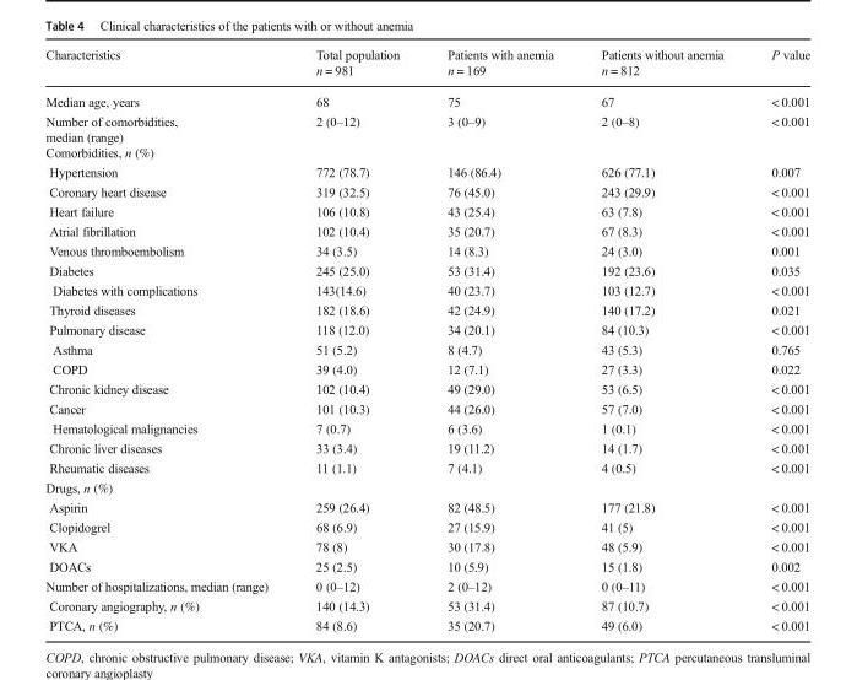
<table><thead><tr><td>Characteristics</td><td>Total population n = 981</td><td>Patients with anemia n = 169</td><td>Patients without anemia n = 812</td><td>P value</td></tr></thead><tbody><tr><td>Median age, years</td><td>68</td><td>75</td><td>67</td><td>&lt; 0.001</td></tr><tr><td>Number of comorbidities, median (range)</td><td>2 (0–12)</td><td>3 (0–9)</td><td>2 (0–8)</td><td>&lt; 0.001</td></tr><tr><td colspan="5">Comorbidities, n (%)</td></tr><tr><td>Hypertension</td><td>772 (78.7)</td><td>146 (86.4)</td><td>626 (77.1)</td><td>0.007</td></tr><tr><td>Coronary heart disease</td><td>319 (32.5)</td><td>76 (45.0)</td><td>243 (29.9)</td><td>&lt; 0.001</td></tr><tr><td>Heart failure</td><td>106 (10.8)</td><td>43 (25.4)</td><td>63 (7.8)</td><td>&lt; 0.001</td></tr><tr><td>Atrial fibrillation</td><td>102 (10.4)</td><td>35 (20.7)</td><td>67 (8.3)</td><td>&lt; 0.001</td></tr><tr><td>Venous thromboembolism</td><td>34 (3.5)</td><td>14 (8.3)</td><td>24 (3.0)</td><td>0.001</td></tr><tr><td>Diabetes</td><td>245 (25.0)</td><td>53 (31.4)</td><td>192 (23.6)</td><td>0.035</td></tr><tr><td>Diabetes with complications</td><td>143(14.6)</td><td>40 (23.7)</td><td>103 (12.7)</td><td>&lt; 0.001</td></tr><tr><td>Thyroid diseases</td><td>182 (18.6)</td><td>42 (24.9)</td><td>140 (17.2)</td><td>0.021</td></tr><tr><td>Pulmonary disease</td><td>118 (12.0)</td><td>34 (20.1)</td><td>84 (10.3)</td><td>&lt; 0.001</td></tr><tr><td>Asthma</td><td>51 (5.2)</td><td>8 (4.7)</td><td>43 (5.3)</td><td>0.765</td></tr><tr><td>COPD</td><td>39 (4.0)</td><td>12 (7.1)</td><td>27 (3.3)</td><td>0.022</td></tr><tr><td>Chronic kidney disease</td><td>102 (10.4)</td><td>49 (29.0)</td><td>53 (6.5)</td><td>&lt; 0.001</td></tr><tr><td>Cancer</td><td>101 (10.3)</td><td>44 (26.0)</td><td>57 (7.0)</td><td>&lt; 0.001</td></tr><tr><td>Hematological malignancies</td><td>7 (0.7)</td><td>6 (3.6)</td><td>1 (0.1)</td><td>&lt; 0.001</td></tr><tr><td>Chronic liver diseases</td><td>33 (3.4)</td><td>19 (11.2)</td><td>14 (1.7)</td><td>&lt; 0.001</td></tr><tr><td>Rheumatic diseases</td><td>11 (1.1)</td><td>7 (4.1)</td><td>4 (0.5)</td><td>&lt; 0.001</td></tr><tr><td colspan="5">Drugs, n (%)</td></tr><tr><td>Aspirin</td><td>259 (26.4)</td><td>82 (48.5)</td><td>177 (21.8)</td><td>&lt; 0.001</td></tr><tr><td>Clopidogrel</td><td>68 (6.9)</td><td>27 (15.9)</td><td>41 (5)</td><td>&lt; 0.001</td></tr><tr><td>VKA</td><td>78 (8)</td><td>30 (17.8)</td><td>48 (5.9)</td><td>&lt; 0.001</td></tr><tr><td>DOACs</td><td>25 (2.5)</td><td>10 (5.9)</td><td>15 (1.8)</td><td>0.002</td></tr><tr><td>Number of hospitalizations, median (range)</td><td>0 (0–12)</td><td>2 (0–12)</td><td>0 (0–11)</td><td>&lt; 0.001</td></tr><tr><td>Coronary angiography, n (%)</td><td>140 (14.3)</td><td>53 (31.4)</td><td>87 (10.7)</td><td>&lt; 0.001</td></tr><tr><td>PTCA, n (%)</td><td>84 (8.6)</td><td>35 (20.7)</td><td>49 (6.0)</td><td>&lt; 0.001</td></tr></tbody></table>